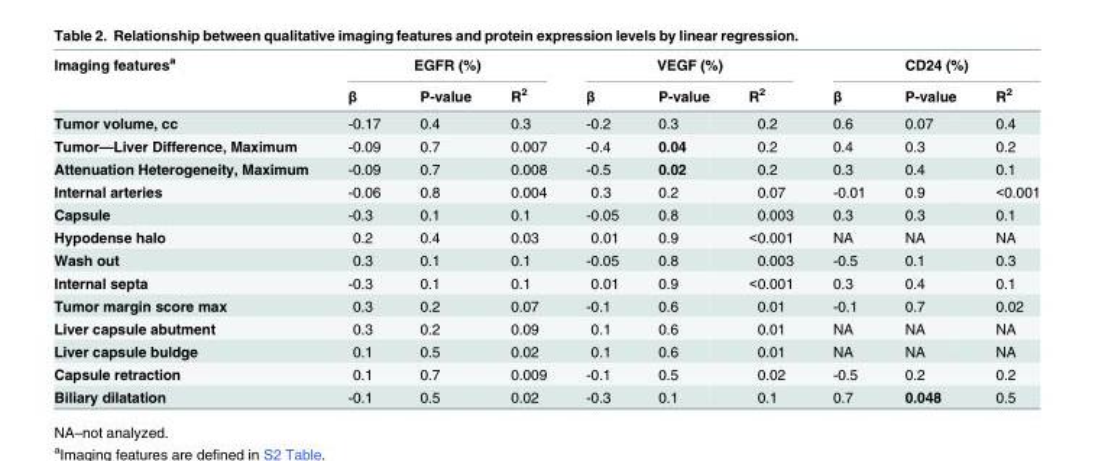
<table><thead><tr><td rowspan="2">Imaging features<sup>a</sup></td><td colspan="3">EGFR (%)</td><td colspan="3">VEGF (%)</td><td colspan="3">CD24 (%)</td></tr><tr><td>β</td><td>P-value</td><td>R<sup>2</sup></td><td>β</td><td>P-value</td><td>R<sup>2</sup></td><td>β</td><td>P-value</td><td>R<sup>2</sup></td></tr></thead><tbody><tr><td>Tumor volume, cc</td><td>-0.17</td><td>0.4</td><td>0.3</td><td>-0.2</td><td>0.3</td><td>0.2</td><td>0.6</td><td>0.07</td><td>0.4</td></tr><tr><td>Tumor—Liver Difference, Maximum</td><td>-0.09</td><td>0.7</td><td>0.007</td><td>-0.4</td><td>0.04</td><td>0.2</td><td>0.4</td><td>0.3</td><td>0.2</td></tr><tr><td>Attenuation Heterogeneity, Maximum</td><td>-0.09</td><td>0.7</td><td>0.008</td><td>-0.5</td><td>0.02</td><td>0.2</td><td>0.3</td><td>0.4</td><td>0.1</td></tr><tr><td>Internal arteries</td><td>-0.06</td><td>0.8</td><td>0.004</td><td>0.3</td><td>0.2</td><td>0.07</td><td>-0.01</td><td>0.9</td><td>&lt;0.001</td></tr><tr><td>Capsule</td><td>-0.3</td><td>0.1</td><td>0.1</td><td>-0.05</td><td>0.8</td><td>0.003</td><td>0.3</td><td>0.3</td><td>0.1</td></tr><tr><td>Hypodense halo</td><td>0.2</td><td>0.4</td><td>0.03</td><td>0.01</td><td>0.9</td><td>&lt;0.001</td><td>NA</td><td>NA</td><td>NA</td></tr><tr><td>Wash out</td><td>0.3</td><td>0.1</td><td>0.1</td><td>-0.05</td><td>0.8</td><td>0.003</td><td>-0.5</td><td>0.1</td><td>0.3</td></tr><tr><td>Internal septa</td><td>-0.3</td><td>0.1</td><td>0.1</td><td>0.01</td><td>0.9</td><td>&lt;0.001</td><td>0.3</td><td>0.4</td><td>0.1</td></tr><tr><td>Tumor margin score max</td><td>0.3</td><td>0.2</td><td>0.07</td><td>-0.1</td><td>0.6</td><td>0.01</td><td>-0.1</td><td>0.7</td><td>0.02</td></tr><tr><td>Liver capsule abutment</td><td>0.3</td><td>0.2</td><td>0.09</td><td>0.1</td><td>0.6</td><td>0.01</td><td>NA</td><td>NA</td><td>NA</td></tr><tr><td>Liver capsule buldge</td><td>0.1</td><td>0.5</td><td>0.02</td><td>0.1</td><td>0.6</td><td>0.01</td><td>NA</td><td>NA</td><td>NA</td></tr><tr><td>Capsule retraction</td><td>0.1</td><td>0.7</td><td>0.009</td><td>-0.1</td><td>0.5</td><td>0.02</td><td>-0.5</td><td>0.2</td><td>0.2</td></tr><tr><td>Biliary dilatation</td><td>-0.1</td><td>0.5</td><td>0.02</td><td>-0.3</td><td>0.1</td><td>0.1</td><td>0.7</td><td>0.048</td><td>0.5</td></tr></tbody></table>